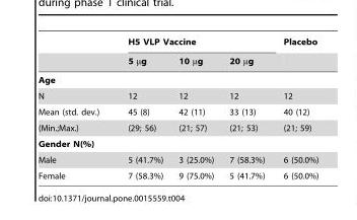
<table><thead><tr><td rowspan="2"></td><td colspan="3">H5 VLP Vaccine</td><td rowspan="2">Placebo</td></tr><tr><td>5 µg</td><td>10 µg</td><td>20 µg</td></tr></thead><tbody><tr><td colspan="5">Age</td></tr><tr><td>N</td><td>12</td><td>12</td><td>12</td><td>12</td></tr><tr><td>Mean (std. dev.)</td><td>45 (8)</td><td>42 (11)</td><td>33 (13)</td><td>40 (12)</td></tr><tr><td>(Min.;Max.)</td><td>(29; 56)</td><td>(21; 57)</td><td>(21; 53)</td><td>(21; 59)</td></tr><tr><td colspan="5">Gender N(%)</td></tr><tr><td>Male</td><td>5 (41.7%)</td><td>3 (25.0%)</td><td>7 (58.3%)</td><td>6 (50.0%)</td></tr><tr><td>Female</td><td>7 (58.3%)</td><td>9 (75.0%)</td><td>5 (41.7%)</td><td>6 (50.0%)</td></tr></tbody></table>